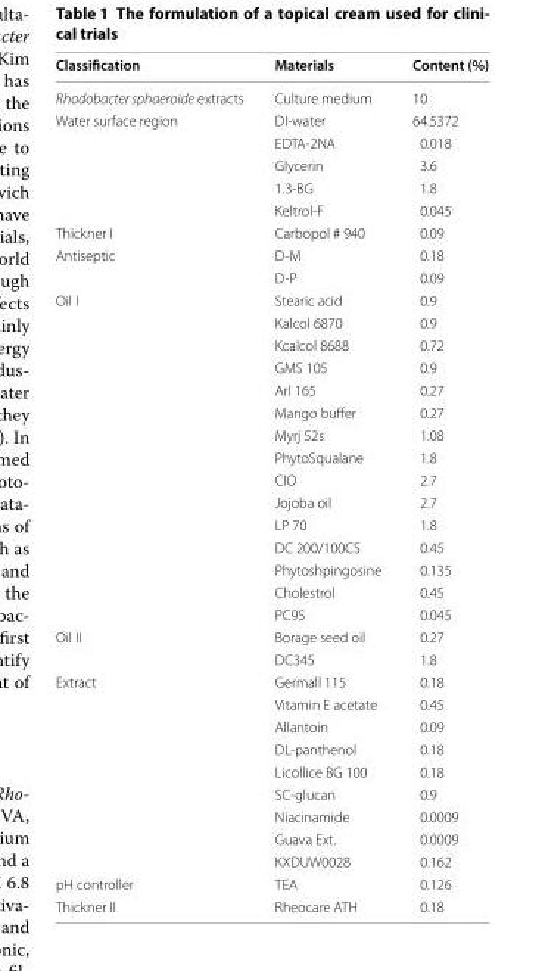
<table><thead><tr><td>Classification</td><td>Materials</td><td>Content (%)</td></tr></thead><tbody><tr><td>Rhodobacter sphaeroide extracts</td><td>Culture medium</td><td>10</td></tr><tr><td rowspan="5">Water surface region</td><td>DI‑water</td><td>64.5372</td></tr><tr><td>EDTA‑2NA</td><td>0.018</td></tr><tr><td>Glycerin</td><td>3.6</td></tr><tr><td>1.3‑BG</td><td>1.8</td></tr><tr><td>Keltrol‑F</td><td>0.045</td></tr><tr><td>Thickner I</td><td>Carbopol # 940</td><td>0.09</td></tr><tr><td rowspan="2">Antiseptic</td><td>D‑M</td><td>0.18</td></tr><tr><td>D‑P</td><td>0.09</td></tr><tr><td rowspan="15">Oil I</td><td>Stearic acid</td><td>0.9</td></tr><tr><td>Kalcol 6870</td><td>0.9</td></tr><tr><td>Kcalcol 8688</td><td>0.72</td></tr><tr><td>GMS 105</td><td>0.9</td></tr><tr><td>Arl 165</td><td>0.27</td></tr><tr><td>Mango buffer</td><td>0.27</td></tr><tr><td>Myrj 52s</td><td>1.08</td></tr><tr><td>PhytoSqualane</td><td>1.8</td></tr><tr><td>CIO</td><td>2.7</td></tr><tr><td>Jojoba oil</td><td>2.7</td></tr><tr><td>LP 70</td><td>1.8</td></tr><tr><td>DC 200/100CS</td><td>0.45</td></tr><tr><td>Phytoshpingosine</td><td>0.135</td></tr><tr><td>Cholestrol</td><td>0.45</td></tr><tr><td>PC95</td><td>0.045</td></tr><tr><td rowspan="2">Oil II</td><td>Borage seed oil</td><td>0.27</td></tr><tr><td>DC345</td><td>1.8</td></tr><tr><td rowspan="9">Extract</td><td>Germall 115</td><td>0.18</td></tr><tr><td>Vitamin E acetate</td><td>0.45</td></tr><tr><td>Allantoin</td><td>0.09</td></tr><tr><td>DL‑panthenol</td><td>0.18</td></tr><tr><td>Licollice BG 100</td><td>0.18</td></tr><tr><td>SC‑glucan</td><td>0.9</td></tr><tr><td>Niacinamide</td><td>0.0009</td></tr><tr><td>Guava Ext.</td><td>0.0009</td></tr><tr><td>KXDUW0028</td><td>0.162</td></tr><tr><td>pH controller</td><td>TEA</td><td>0.126</td></tr><tr><td>Thickner II</td><td>Rheocare ATH</td><td>0.18</td></tr></tbody></table>